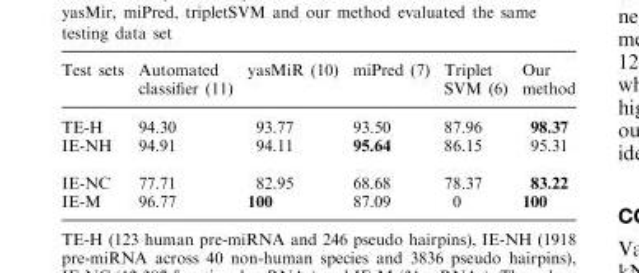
<table><thead><tr><td>Test sets</td><td>Automated classifier (11)</td><td>yasMiR (10)</td><td>miPred (7)</td><td>Triplet SVM (6)</td><td>Our method</td></tr></thead><tbody><tr><td>TE-H</td><td>94.30</td><td>93.77</td><td>93.50</td><td>87.96</td><td>98.37</td></tr><tr><td>IE-NH</td><td>94.91</td><td>94.11</td><td>95.64</td><td>86.15</td><td>95.31</td></tr><tr><td>IE-NC</td><td>77.71</td><td>82.95</td><td>68.68</td><td>78.37</td><td>83.22</td></tr><tr><td>IE-M</td><td>96.77</td><td>100</td><td>87.09</td><td>0</td><td>100</td></tr></tbody></table>